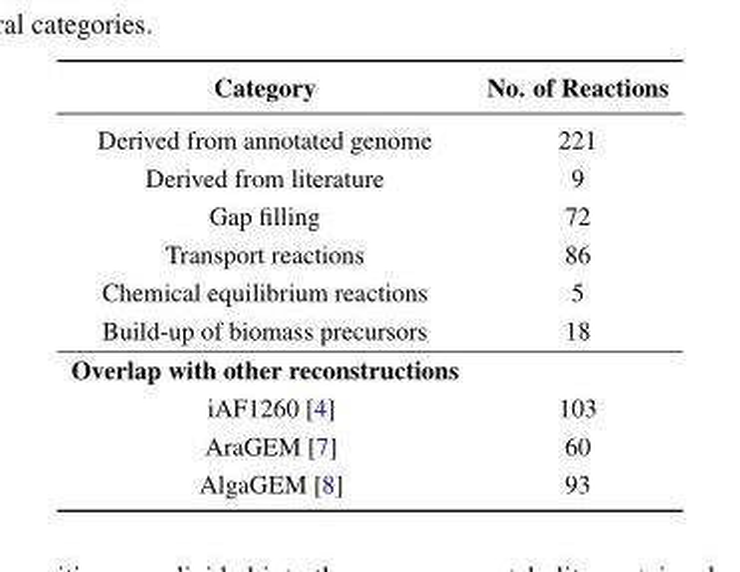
<table><thead><tr><td>Category</td><td>No. of Reactions</td></tr></thead><tbody><tr><td>Derived from annotated genome</td><td>221</td></tr><tr><td>Derived from literature</td><td>9</td></tr><tr><td>Gap filling</td><td>72</td></tr><tr><td>Transport reactions</td><td>86</td></tr><tr><td>Chemical equilibrium reactions</td><td>5</td></tr><tr><td>Build-up of biomass precursors</td><td>18</td></tr><tr><td colspan="2">Overlap with other reconstructions</td></tr><tr><td>iAF1260 [4]</td><td>103</td></tr><tr><td>AraGEM [7]</td><td>60</td></tr><tr><td>AlgaGEM [8]</td><td>93</td></tr></tbody></table>